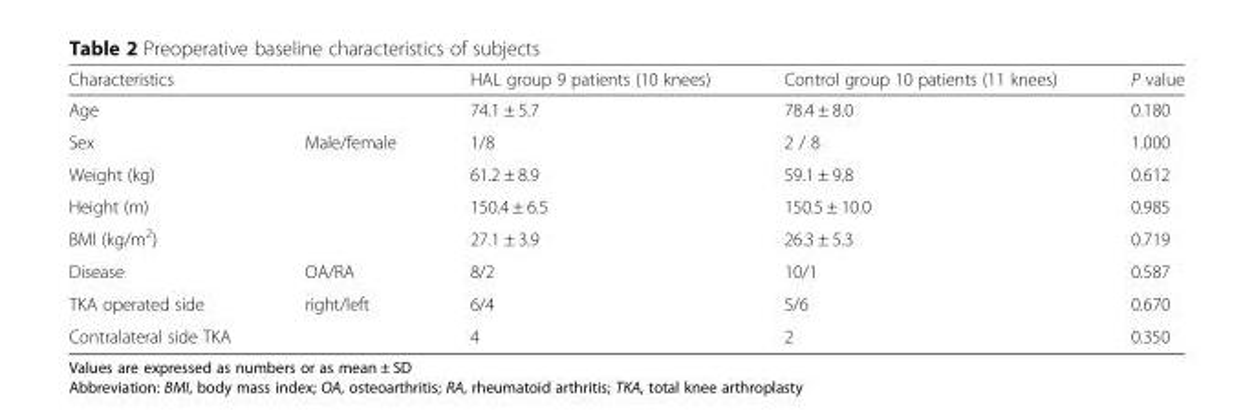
<table><thead><tr><td>Characteristics</td><td></td><td>HAL group 9 patients (10 knees)</td><td>Control group 10 patients (11 knees)</td><td>P value</td></tr></thead><tbody><tr><td>Age</td><td></td><td>74.1 ± 5.7</td><td>78.4 ± 8.0</td><td>0.180</td></tr><tr><td>Sex</td><td>Male/female</td><td>1/8</td><td>2 / 8</td><td>1.000</td></tr><tr><td>Weight (kg)</td><td></td><td>61.2 ± 8.9</td><td>59.1 ± 9.8</td><td>0.612</td></tr><tr><td colspan="2">Height (m)</td><td>150.4 ± 6.5</td><td>150.5 ± 10.0</td><td>0.985</td></tr><tr><td>BMI (kg/m<sup>2</sup>)</td><td></td><td>27.1 ± 3.9</td><td>26.3 ± 5.3</td><td>0.719</td></tr><tr><td>Disease</td><td>OA/RA</td><td>8/2</td><td>10/1</td><td>0.587</td></tr><tr><td>TKA operated side</td><td>right/left</td><td>6/4</td><td>5/6</td><td>0.670</td></tr><tr><td>Contralateral side TKA</td><td></td><td>4</td><td>2</td><td>0.350</td></tr></tbody></table>